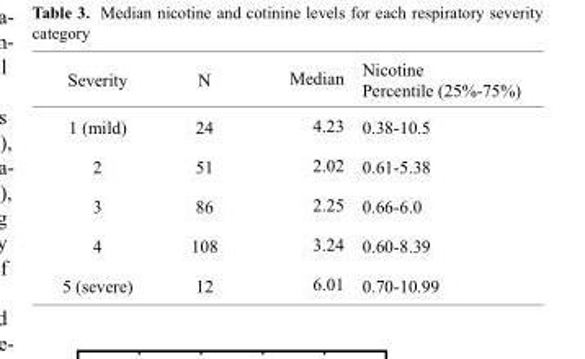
<table><thead><tr><td>Severity</td><td>N</td><td>Median</td><td>Nicotine Percentile (25%-75%)</td></tr></thead><tbody><tr><td>1 (mild)</td><td>24</td><td>4.23</td><td>0.38-10.5</td></tr><tr><td>2</td><td>51</td><td>2.02</td><td>0.61-5.38</td></tr><tr><td>3</td><td>86</td><td>2.25</td><td>0.66-6.0</td></tr><tr><td>4</td><td>108</td><td>3.24</td><td>0.60-8.39</td></tr><tr><td>5 (severe)</td><td>12</td><td>6.01</td><td>0.70-10.99</td></tr></tbody></table>